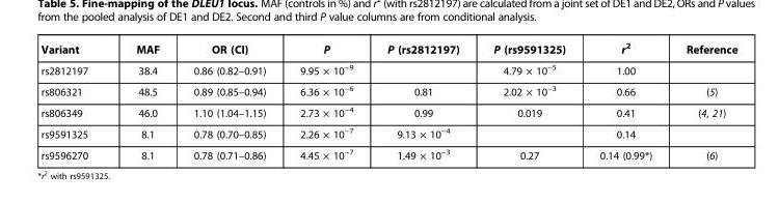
<table><thead><tr><td>Variant</td><td>MAF</td><td>OR (CI)</td><td>P</td><td>P (rs2812197)</td><td>P (rs9591325)</td><td>r<sup>2</sup></td><td>Reference</td></tr></thead><tbody><tr><td>rs2812197</td><td>38.4</td><td>0.86 (0.82–0.91)</td><td>9.95 × 10<sup>−9</sup></td><td></td><td>4.79 × 10<sup>−5</sup></td><td>1.00</td><td></td></tr><tr><td>rs806321</td><td>48.5</td><td>0.89 (0.85–0.94)</td><td>6.36 × 10<sup>−6</sup></td><td>0.81</td><td>2.02 × 10<sup>−3</sup></td><td>0.66</td><td>(5)</td></tr><tr><td>rs806349</td><td>46.0</td><td>1.10 (1.04–1.15)</td><td>2.73 × 10<sup>−4</sup></td><td>0.99</td><td>0.019</td><td>0.41</td><td>(4, 21)</td></tr><tr><td>rs9591325</td><td>8.1</td><td>0.78 (0.70–0.85)</td><td>2.26 × 10<sup>−7</sup></td><td>9.13 × 10<sup>−4</sup></td><td></td><td>0.14</td><td></td></tr><tr><td>rs9596270</td><td>8.1</td><td>0.78 (0.71–0.86)</td><td>4.45 × 10<sup>−7</sup></td><td>1.49 × 10<sup>−3</sup></td><td>0.27</td><td>0.14 (0.99*)</td><td>(6)</td></tr></tbody></table>